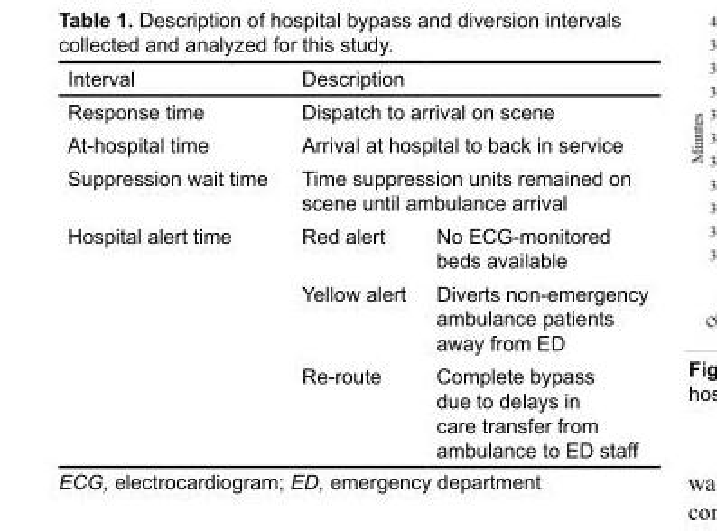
<table><thead><tr><td>Interval</td><td colspan="2">Description</td></tr></thead><tbody><tr><td>Response time</td><td colspan="2">Dispatch to arrival on scene</td></tr><tr><td>At-hospital time</td><td colspan="2">Arrival at hospital to back in service</td></tr><tr><td>Suppression wait time</td><td colspan="2">Time suppression units remained on scene until ambulance arrival</td></tr><tr><td rowspan="3">Hospital alert time</td><td>Red alert</td><td>No ECG-monitored beds available</td></tr><tr><td>Yellow alert</td><td>Diverts non-emergency ambulance patients away from ED</td></tr><tr><td>Re-route</td><td>Complete bypass due to delays in care transfer from ambulance to ED staff</td></tr></tbody></table>